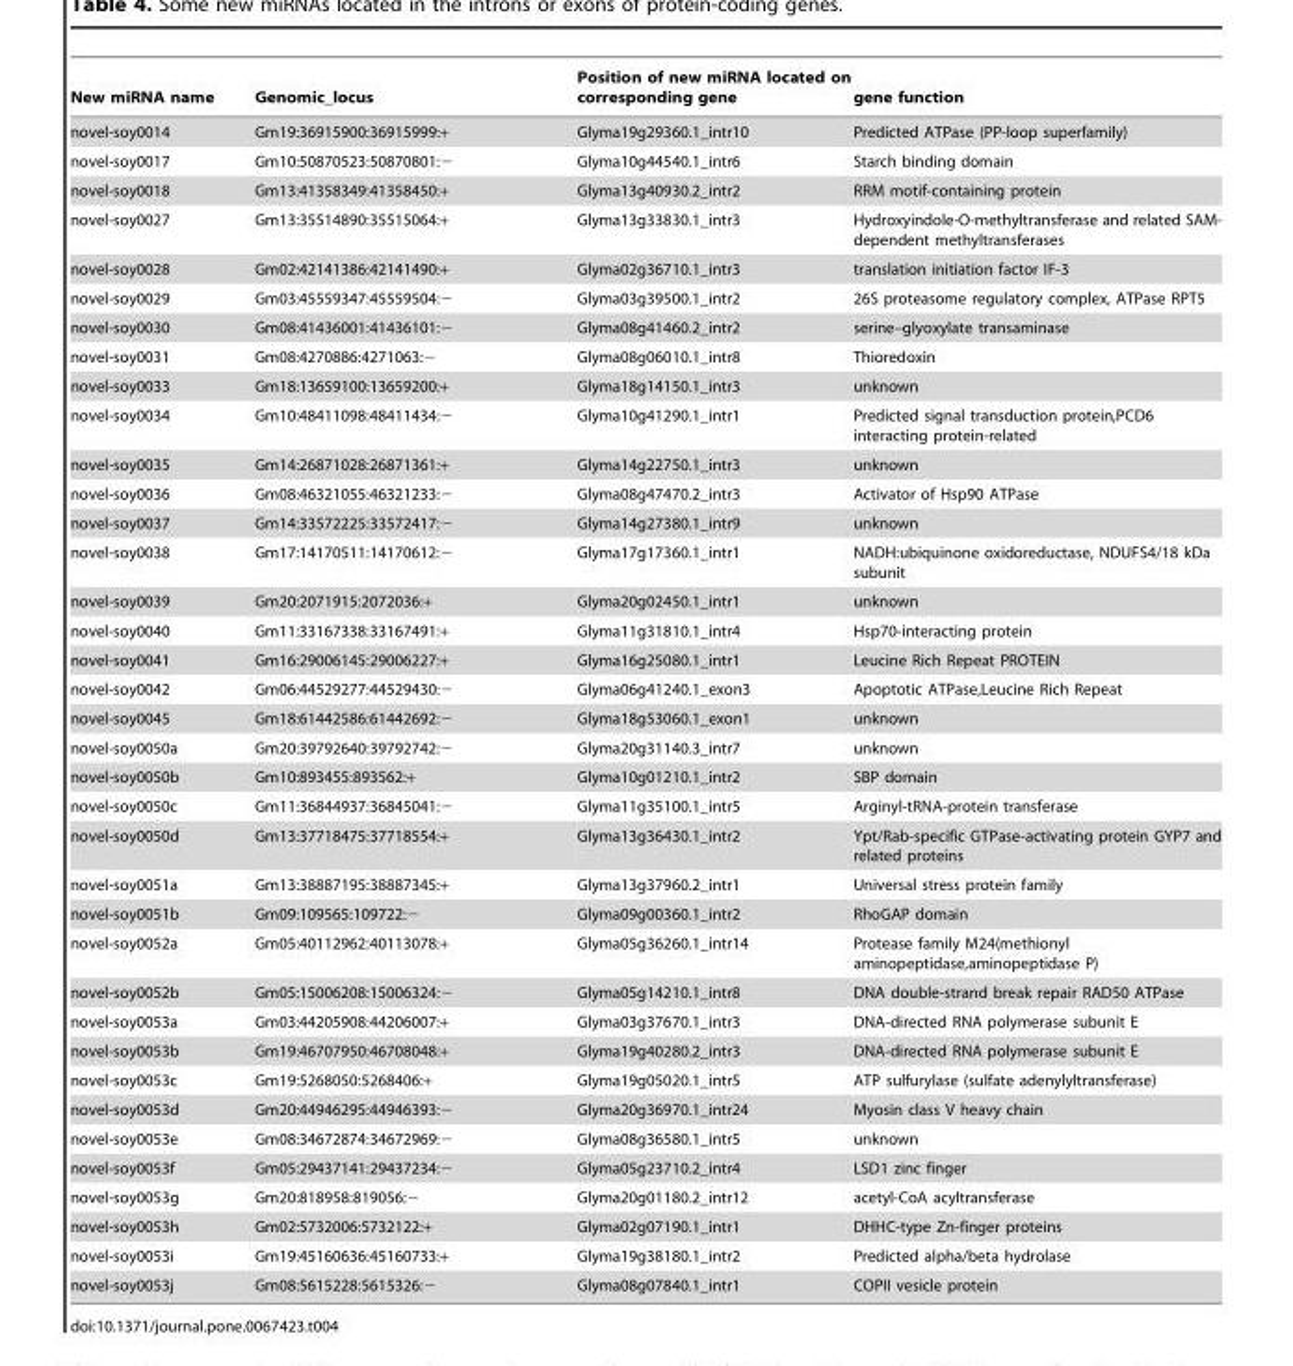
<table><thead><tr><td>New miRNA name</td><td>Genomic_locus</td><td>Position of new miRNA located on corresponding gene</td><td>gene function</td></tr></thead><tbody><tr><td>novel-soy0014</td><td>Gm19:36915900:36915999:+</td><td>Glyma19g29360.1_intr10</td><td>Predicted ATPase (PP-loop superfamily)</td></tr><tr><td>novel-soy0017</td><td>Gm10:50870523:50870801:−</td><td>Glyma10g44540.1_intr6</td><td>Starch binding domain</td></tr><tr><td>novel-soy0018</td><td>Gm13:41358349:41358450:+</td><td>Glyma13g40930.2_intr2</td><td>RRM motif-containing protein</td></tr><tr><td>novel-soy0027</td><td>Gm13:35514890:35515064:+</td><td>Glyma13g33830.1_intr3</td><td>Hydroxyindole-O-methyltransferase and related SAM- dependent methyltransferases</td></tr><tr><td>novel-soy0028</td><td>Gm02:42141386:42141490:+</td><td>Glyma02g36710.1_intr3</td><td>translation initiation factor IF-3</td></tr><tr><td>novel-soy0029</td><td>Gm03:45559347:45559504:−</td><td>Glyma03g39500.1_intr2</td><td>26S proteasome regulatory complex, ATPase RPT5</td></tr><tr><td>novel-soy0030</td><td>Gm08:41436001:41436101:−</td><td>Glyma08g41460.2_intr2</td><td>serine–glyoxylate transaminase</td></tr><tr><td>novel-soy0031</td><td>Gm08:4270886:4271063:−</td><td>Glyma08g06010.1_intr8</td><td>Thioredoxin</td></tr><tr><td>novel-soy0033</td><td>Gm18:13659100:13659200:+</td><td>Glyma18g14150.1_intr3</td><td>unknown</td></tr><tr><td>novel-soy0034</td><td>Gm10:48411098:48411434:−</td><td>Glyma10g41290.1_intr1</td><td>Predicted signal transduction protein,PCD6 interacting protein-related</td></tr><tr><td>novel-soy0035</td><td>Gm14:26871028:26871361:+</td><td>Glyma14g22750.1_intr3</td><td>unknown</td></tr><tr><td>novel-soy0036</td><td>Gm08:46321055:46321233:−</td><td>Glyma08g47470.2_intr3</td><td>Activator of Hsp90 ATPase</td></tr><tr><td>novel-soy0037</td><td>Gm14:33572225:33572417:−</td><td>Glyma14g27380.1_intr9</td><td>unknown</td></tr><tr><td>novel-soy0038</td><td>Gm17:14170511:14170612:−</td><td>Glyma17g17360.1_intr1</td><td>NADH:ubiquinone oxidoreductase, NDUFS4/18 kDa subunit</td></tr><tr><td>novel-soy0039</td><td>Gm20:2071915:2072036:+</td><td>Glyma20g02450.1_intr1</td><td>unknown</td></tr><tr><td>novel-soy0040</td><td>Gm11:33167338:33167491:+</td><td>Glyma11g31810.1_intr4</td><td>Hsp70-interacting protein</td></tr><tr><td>novel-soy0041</td><td>Gm16:29006145:29006227:+</td><td>Glyma16g25080.1_intr1</td><td>Leucine Rich Repeat PROTEIN</td></tr><tr><td>novel-soy0042</td><td>Gm06:44529277:44529430:−</td><td>Glyma06g41240.1_exon3</td><td>Apoptotic ATPase,Leucine Rich Repeat</td></tr><tr><td>novel-soy0045</td><td>Gm18:61442586:61442692:−</td><td>Glyma18g53060.1_exon1</td><td>unknown</td></tr><tr><td>novel-soy0050a</td><td>Gm20:39792640:39792742:−</td><td>Glyma20g31140.3_intr7</td><td>unknown</td></tr><tr><td>novel-soy0050b</td><td>Gm10:893455:893562:+</td><td>Glyma10g01210.1_intr2</td><td>SBP domain</td></tr><tr><td>novel-soy0050c</td><td>Gm11:36844937:36845041:−</td><td>Glyma11g35100.1_intr5</td><td>Arginyl-tRNA-protein transferase</td></tr><tr><td>novel-soy0050d</td><td>Gm13:37718475:37718554:+</td><td>Glyma13g36430.1_intr2</td><td>Ypt/Rab-specific GTPase-activating protein GYP7 and related proteins</td></tr><tr><td>novel-soy0051a</td><td>Gm13:38887195:38887345:+</td><td>Glyma13g37960.2_intr1</td><td>Universal stress protein family</td></tr><tr><td>novel-soy0051b</td><td>Gm09:109565:109722:−</td><td>Glyma09g00360.1_intr2</td><td>RhoGAP domain</td></tr><tr><td>novel-soy0052a</td><td>Gm05:40112962:40113078:+</td><td>Glyma05g36260.1_intr14</td><td>Protease family M24(methionyl aminopeptidase,aminopeptidase P)</td></tr><tr><td>novel-soy0052b</td><td>Gm05:15006208:15006324:−</td><td>Glyma05g14210.1_intr8</td><td>DNA double-strand break repair RAD50 ATPase</td></tr><tr><td>novel-soy0053a</td><td>Gm03:44205908:44206007:+</td><td>Glyma03g37670.1_intr3</td><td>DNA-directed RNA polymerase subunit E</td></tr><tr><td>novel-soy0053b</td><td>Gm19:46707950:46708048:+</td><td>Glyma19g40280.2_intr3</td><td>DNA-directed RNA polymerase subunit E</td></tr><tr><td>novel-soy0053c</td><td>Gm19:5268050:5268406:+</td><td>Glyma19g05020.1_intr5</td><td>ATP sulfurylase (sulfate adenylyltransferase)</td></tr><tr><td>novel-soy0053d</td><td>Gm20:44946295:44946393:−</td><td>Glyma20g36970.1_intr24</td><td>Myosin class V heavy chain</td></tr><tr><td>novel-soy0053e</td><td>Gm08:34672874:34672969:−</td><td>Glyma08g36580.1_intr5</td><td>unknown</td></tr><tr><td>novel-soy0053f</td><td>Gm05:29437141:29437234:−</td><td>Glyma05g23710.2_intr4</td><td>LSD1 zinc finger</td></tr><tr><td>novel-soy0053g</td><td>Gm20:818958:819056:−</td><td>Glyma20g01180.2_intr12</td><td>acetyl-CoA acyltransferase</td></tr><tr><td>novel-soy0053h</td><td>Gm02:5732006:5732122:+</td><td>Glyma02g07190.1_intr1</td><td>DHHC-type Zn-finger proteins</td></tr><tr><td>novel-soy0053i</td><td>Gm19:45160636:45160733:+</td><td>Glyma19g38180.1_intr2</td><td>Predicted alpha/beta hydrolase</td></tr><tr><td>novel-soy0053j</td><td>Gm08:5615228:5615326:−</td><td>Glyma08g07840.1_intr1</td><td>COPII vesicle protein</td></tr></tbody></table>